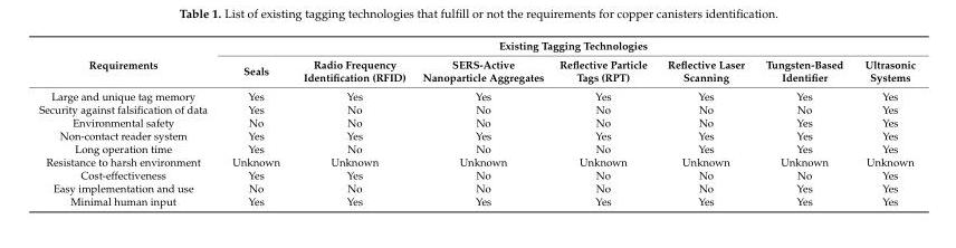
<table><thead><tr><td rowspan="2">Requirements</td><td colspan="7">Existing Tagging Technologies</td></tr><tr><td>Seals</td><td>Radio Frequency Identification (RFID)</td><td>SERS-Active Nanoparticle Aggregates</td><td>Reflective Particle Tags (RPT)</td><td>Reflective Laser Scanning</td><td>Tungsten-Based Identifier</td><td>Ultrasonic Systems</td></tr></thead><tbody><tr><td>Large and unique tag memory</td><td>Yes</td><td>Yes</td><td>Yes</td><td>Yes</td><td>Yes</td><td>Yes</td><td>Yes</td></tr><tr><td>Security against falsification of data</td><td>Yes</td><td>No</td><td>No</td><td>No</td><td>No</td><td>No</td><td>Yes</td></tr><tr><td>Environmental safety</td><td>No</td><td>No</td><td>No</td><td>No</td><td>No</td><td>Yes</td><td>Yes</td></tr><tr><td>Non-contact reader system</td><td>Yes</td><td>Yes</td><td>Yes</td><td>Yes</td><td>Yes</td><td>Yes</td><td>Yes</td></tr><tr><td>Long operation time</td><td>Yes</td><td>No</td><td>No</td><td>No</td><td>Yes</td><td>Yes</td><td>Yes</td></tr><tr><td>Resistance to harsh environment</td><td>Unknown</td><td>Unknown</td><td>Unknown</td><td>Unknown</td><td>Unknown</td><td>Unknown</td><td>Unknown</td></tr><tr><td>Cost-effectiveness</td><td>Yes</td><td>Yes</td><td>No</td><td>No</td><td>No</td><td>No</td><td>Yes</td></tr><tr><td>Easy implementation and use</td><td>No</td><td>No</td><td>No</td><td>No</td><td>No</td><td>Yes</td><td>Yes</td></tr><tr><td>Minimal human input</td><td>Yes</td><td>Yes</td><td>Yes</td><td>Yes</td><td>Yes</td><td>Yes</td><td>Yes</td></tr></tbody></table>